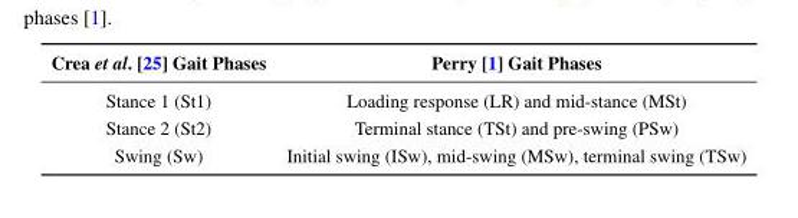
<table><thead><tr><td>Crea et al. [25] Gait Phases</td><td>Perry [1] Gait Phases</td></tr></thead><tbody><tr><td>Stance 1 (St1)</td><td>Loading response (LR) and mid-stance (MSt)</td></tr><tr><td>Stance 2 (St2)</td><td>Terminal stance (TSt) and pre-swing (PSw)</td></tr><tr><td>Swing (Sw)</td><td>Initial swing (ISw), mid-swing (MSw), terminal swing (TSw)</td></tr></tbody></table>